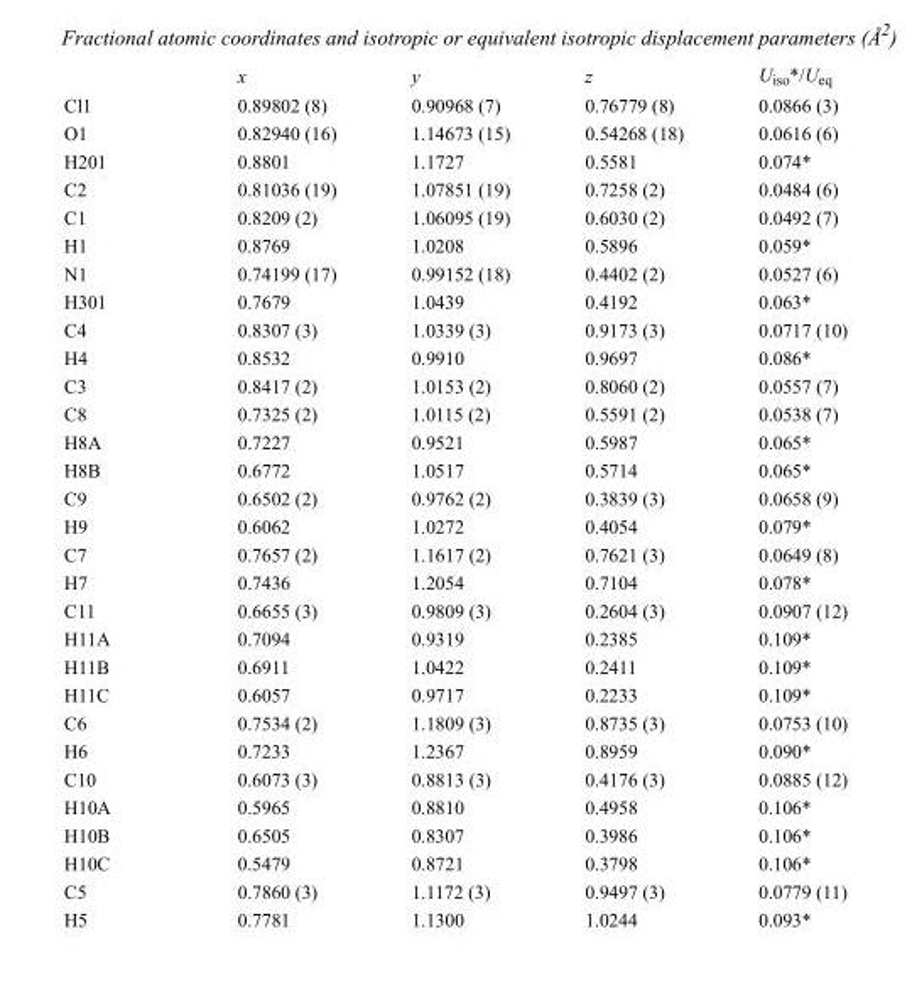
<table><thead><tr><td></td><td>x</td><td>y</td><td>z</td><td>U<sub>iso</sub>*/U<sub>eq</sub></td></tr></thead><tbody><tr><td>Cl1</td><td>0.89802 (8)</td><td>0.90968 (7)</td><td>0.76779 (8)</td><td>0.0866 (3)</td></tr><tr><td>O1</td><td>0.82940 (16)</td><td>1.14673 (15)</td><td>0.54268 (18)</td><td>0.0616 (6)</td></tr><tr><td>H201</td><td>0.8801</td><td>1.1727</td><td>0.5581</td><td>0.074*</td></tr><tr><td>C2</td><td>0.81036 (19)</td><td>1.07851 (19)</td><td>0.7258 (2)</td><td>0.0484 (6)</td></tr><tr><td>C1</td><td>0.8209 (2)</td><td>1.06095 (19)</td><td>0.6030 (2)</td><td>0.0492 (7)</td></tr><tr><td>H1</td><td>0.8769</td><td>1.0208</td><td>0.5896</td><td>0.059*</td></tr><tr><td>N1</td><td>0.74199 (17)</td><td>0.99152 (18)</td><td>0.4402 (2)</td><td>0.0527 (6)</td></tr><tr><td>H301</td><td>0.7679</td><td>1.0439</td><td>0.4192</td><td>0.063*</td></tr><tr><td>C4</td><td>0.8307 (3)</td><td>1.0339 (3)</td><td>0.9173 (3)</td><td>0.0717 (10)</td></tr><tr><td>H4</td><td>0.8532</td><td>0.9910</td><td>0.9697</td><td>0.086*</td></tr><tr><td>C3</td><td>0.8417 (2)</td><td>1.0153 (2)</td><td>0.8060 (2)</td><td>0.0557 (7)</td></tr><tr><td>C8</td><td>0.7325 (2)</td><td>1.0115 (2)</td><td>0.5591 (2)</td><td>0.0538 (7)</td></tr><tr><td>H8A</td><td>0.7227</td><td>0.9521</td><td>0.5987</td><td>0.065*</td></tr><tr><td>H8B</td><td>0.6772</td><td>1.0517</td><td>0.5714</td><td>0.065*</td></tr><tr><td>C9</td><td>0.6502 (2)</td><td>0.9762 (2)</td><td>0.3839 (3)</td><td>0.0658 (9)</td></tr><tr><td>H9</td><td>0.6062</td><td>1.0272</td><td>0.4054</td><td>0.079*</td></tr><tr><td>C7</td><td>0.7657 (2)</td><td>1.1617 (2)</td><td>0.7621 (3)</td><td>0.0649 (8)</td></tr><tr><td>H7</td><td>0.7436</td><td>1.2054</td><td>0.7104</td><td>0.078*</td></tr><tr><td>C11</td><td>0.6655 (3)</td><td>0.9809 (3)</td><td>0.2604 (3)</td><td>0.0907 (12)</td></tr><tr><td>H11A</td><td>0.7094</td><td>0.9319</td><td>0.2385</td><td>0.109*</td></tr><tr><td>H11B</td><td>0.6911</td><td>1.0422</td><td>0.2411</td><td>0.109*</td></tr><tr><td>H11C</td><td>0.6057</td><td>0.9717</td><td>0.2233</td><td>0.109*</td></tr><tr><td>C6</td><td>0.7534 (2)</td><td>1.1809 (3)</td><td>0.8735 (3)</td><td>0.0753 (10)</td></tr><tr><td>H6</td><td>0.7233</td><td>1.2367</td><td>0.8959</td><td>0.090*</td></tr><tr><td>C10</td><td>0.6073 (3)</td><td>0.8813 (3)</td><td>0.4176 (3)</td><td>0.0885 (12)</td></tr><tr><td>H10A</td><td>0.5965</td><td>0.8810</td><td>0.4958</td><td>0.106*</td></tr><tr><td>H10B</td><td>0.6505</td><td>0.8307</td><td>0.3986</td><td>0.106*</td></tr><tr><td>H10C</td><td>0.5479</td><td>0.8721</td><td>0.3798</td><td>0.106*</td></tr><tr><td>C5</td><td>0.7860 (3)</td><td>1.1172 (3)</td><td>0.9497 (3)</td><td>0.0779 (11)</td></tr><tr><td>H5</td><td>0.7781</td><td>1.1300</td><td>1.0244</td><td>0.093*</td></tr></tbody></table>